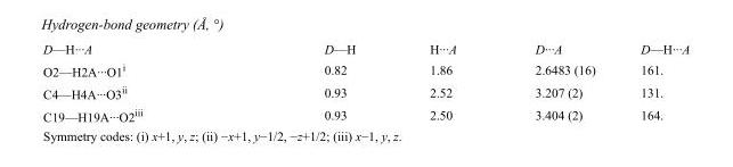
<table><tbody><tr><td>D—H···A</td><td>D—H</td><td>H···A</td><td>D···A</td><td>D—H···A</td></tr><tr><td>O2—H2A···O1<sup>i</sup></td><td>0.82</td><td>1.86</td><td>2.6483 (16)</td><td>161.</td></tr><tr><td>C4—H4A···O3<sup>ii</sup></td><td>0.93</td><td>2.52</td><td>3.207 (2)</td><td>131.</td></tr><tr><td>C19—H19A···O2<sup>iii</sup></td><td>0.93</td><td>2.50</td><td>3.404 (2)</td><td>164.</td></tr></tbody></table>